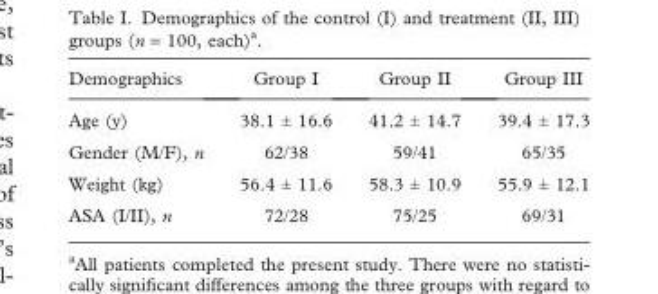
<table><thead><tr><td>Demographics</td><td>Group I</td><td>Group II</td><td>Group III</td></tr></thead><tbody><tr><td>Age (y)</td><td>38.1 ± 16.6</td><td>41.2 ± 14.7</td><td>39.4 ± 17.3</td></tr><tr><td>Gender (M/F), n</td><td>62/38</td><td>59/41</td><td>65/35</td></tr><tr><td>Weight (kg)</td><td>56.4 ± 11.6</td><td>58.3 ± 10.9</td><td>55.9 ± 12.1</td></tr><tr><td>ASA (I/II), n</td><td>72/28</td><td>75/25</td><td>69/31</td></tr></tbody></table>